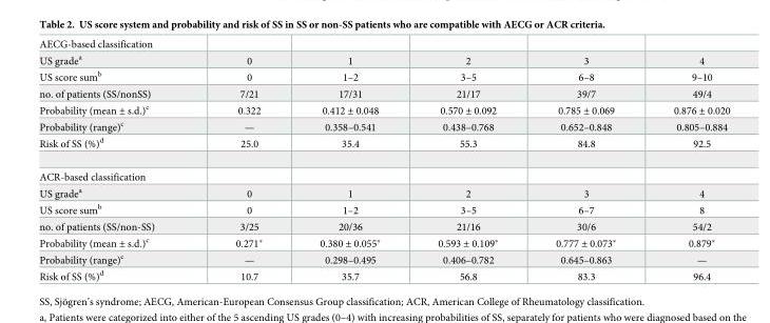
<table><tbody><tr><td colspan="6">AECG-based classification</td></tr><tr><td>US grade<sup>a</sup></td><td>0</td><td>1</td><td>2</td><td>3</td><td>4</td></tr><tr><td>US score sum<sup>b</sup></td><td>0</td><td>1–2</td><td>3–5</td><td>6–8</td><td>9–10</td></tr><tr><td>no. of patients (SS/nonSS)</td><td>7/21</td><td>17/31</td><td>21/17</td><td>39/7</td><td>49/4</td></tr><tr><td>Probability (mean ± s.d.)<sup>c</sup></td><td>0.322</td><td>0.412 ± 0.048</td><td>0.570 ± 0.092</td><td>0.785 ± 0.069</td><td>0.876 ± 0.020</td></tr><tr><td>Probability (range)<sup>c</sup></td><td>—</td><td>0.358–0.541</td><td>0.438–0.768</td><td>0.652–0.848</td><td>0.805–0.884</td></tr><tr><td>Risk of SS (%)<sup>d</sup></td><td>25.0</td><td>35.4</td><td>55.3</td><td>84.8</td><td>92.5</td></tr><tr><td colspan="6">ACR-based classification</td></tr><tr><td>US grade<sup>a</sup></td><td>0</td><td>1</td><td>2</td><td>3</td><td>4</td></tr><tr><td>US score sum<sup>b</sup></td><td>0</td><td>1–2</td><td>3–5</td><td>6–7</td><td>8</td></tr><tr><td>no. of patients (SS/non-SS)</td><td>3/25</td><td>20/36</td><td>21/16</td><td>30/6</td><td>54/2</td></tr><tr><td>Probability (mean ± s.d.)<sup>c</sup></td><td>0.271*</td><td>0.380 ± 0.055*</td><td>0.593 ± 0.109*</td><td>0.777 ± 0.073*</td><td>0.879*</td></tr><tr><td>Probability (range)<sup>c</sup></td><td>—</td><td>0.298–0.495</td><td>0.406–0.782</td><td>0.645–0.863</td><td>—</td></tr><tr><td>Risk of SS (%)<sup>d</sup></td><td>10.7</td><td>35.7</td><td>56.8</td><td>83.3</td><td>96.4</td></tr></tbody></table>